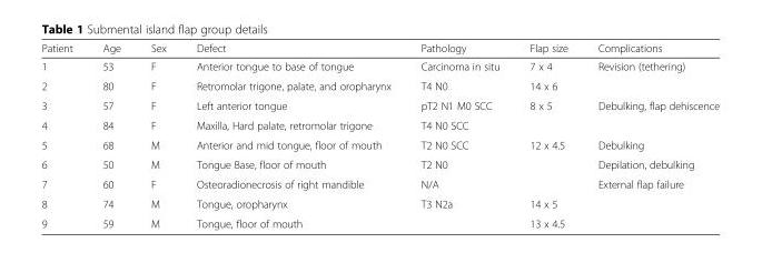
<table><thead><tr><td>Patient</td><td>Age</td><td>Sex</td><td>Defect</td><td>Pathology</td><td>Flap size</td><td>Complications</td></tr></thead><tbody><tr><td>1</td><td>53</td><td>F</td><td>Anterior tongue to base of tongue</td><td>Carcinoma in situ</td><td>7 x 4</td><td>Revision (tethering)</td></tr><tr><td>2</td><td>80</td><td>F</td><td>Retromolar trigone, palate, and oropharynx</td><td>T4 N0</td><td>14 x 6</td><td></td></tr><tr><td>3</td><td>57</td><td>F</td><td>Left anterior tongue</td><td>pT2 N1 M0 SCC</td><td>8 x 5</td><td>Debulking, flap dehiscence</td></tr><tr><td>4</td><td>84</td><td>F</td><td>Maxilla, Hard palate, retromolar trigone</td><td>T4 N0 SCC</td><td></td><td></td></tr><tr><td>5</td><td>68</td><td>M</td><td>Anterior and mid tongue, floor of mouth</td><td>T2 N0 SCC</td><td>12 x 4.5</td><td>Debulking</td></tr><tr><td>6</td><td>50</td><td>M</td><td>Tongue Base, floor of mouth</td><td>T2 N0</td><td></td><td>Depilation, debulking</td></tr><tr><td>7</td><td>60</td><td>F</td><td>Osteoradionecrosis of right mandible</td><td>N/A</td><td></td><td>External flap failure</td></tr><tr><td>8</td><td>74</td><td>M</td><td>Tongue, oropharynx</td><td>T3 N2a</td><td>14 x 5</td><td></td></tr><tr><td>9</td><td>59</td><td>M</td><td>Tongue, floor of mouth</td><td></td><td>13 x 4.5</td><td></td></tr></tbody></table>